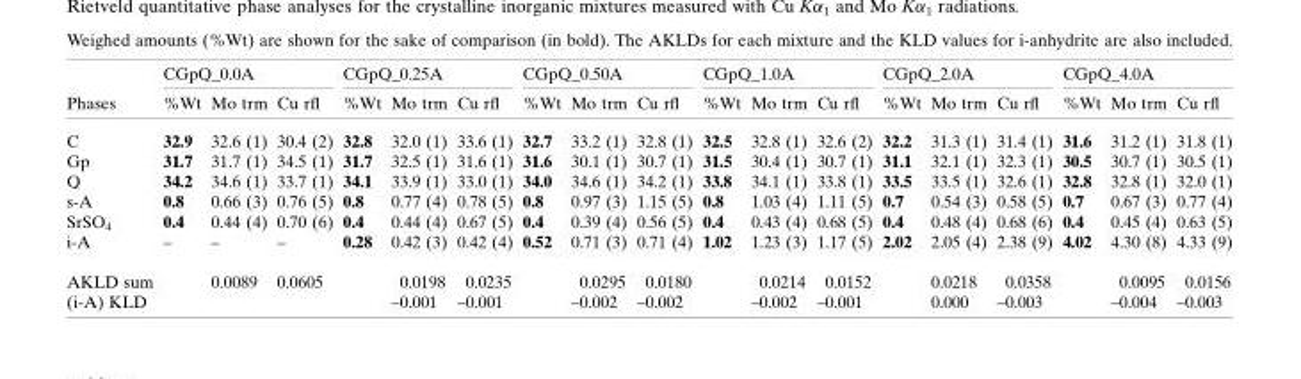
<table><thead><tr><td rowspan="2">Phases</td><td colspan="3">CGpQ_0.0A</td><td colspan="3">CGpQ_0.25A</td><td colspan="3">CGpQ_0.50A</td><td colspan="3">CGpQ_1.0A</td><td colspan="3">CGpQ_2.0A</td><td colspan="3">CGpQ_4.0A</td></tr><tr><td>%Wt</td><td>Mo trm</td><td>Cu rfl</td><td>%Wt</td><td>Mo trm</td><td>Cu rfl</td><td>%Wt</td><td>Mo trm</td><td>Cu rfl</td><td>%Wt</td><td>Mo trm</td><td>Cu rfl</td><td>%Wt</td><td>Mo trm</td><td>Cu rfl</td><td>%Wt</td><td>Mo trm</td><td>Cu rfl</td></tr></thead><tbody><tr><td>C</td><td>32.9</td><td>32.6 (1)</td><td>30.4 (2)</td><td>32.8</td><td>32.0 (1)</td><td>33.6 (1)</td><td>32.7</td><td>33.2 (1)</td><td>32.8 (1)</td><td>32.5</td><td>32.8 (1)</td><td>32.6 (2)</td><td>32.2</td><td>31.3 (1)</td><td>31.4 (1)</td><td>31.6</td><td>31.2 (1)</td><td>31.8 (1)</td></tr><tr><td>Gp</td><td>31.7</td><td>31.7 (1)</td><td>34.5 (1)</td><td>31.7</td><td>32.5 (1)</td><td>31.6 (1)</td><td>31.6</td><td>30.1 (1)</td><td>30.7 (1)</td><td>31.5</td><td>30.4 (1)</td><td>30.7 (1)</td><td>31.1</td><td>32.1 (1)</td><td>32.3 (1)</td><td>30.5</td><td>30.7 (1)</td><td>30.5 (1)</td></tr><tr><td>Q</td><td>34.2</td><td>34.6 (1)</td><td>33.7 (1)</td><td>34.1</td><td>33.9 (1)</td><td>33.0 (1)</td><td>34.0</td><td>34.6 (1)</td><td>34.2 (1)</td><td>33.8</td><td>34.1 (1)</td><td>33.8 (1)</td><td>33.5</td><td>33.5 (1)</td><td>32.6 (1)</td><td>32.8</td><td>32.8 (1)</td><td>32.0 (1)</td></tr><tr><td>s-A</td><td>0.8</td><td>0.66 (3)</td><td>0.76 (5)</td><td>0.8</td><td>0.77 (4)</td><td>0.78 (5)</td><td>0.8</td><td>0.97 (3)</td><td>1.15 (5)</td><td>0.8</td><td>1.03 (4)</td><td>1.11 (5)</td><td>0.7</td><td>0.54 (3)</td><td>0.58 (5)</td><td>0.7</td><td>0.67 (3)</td><td>0.77 (4)</td></tr><tr><td>SrSO<sub>4</sub></td><td>0.4</td><td>0.44 (4)</td><td>0.70 (6)</td><td>0.4</td><td>0.44 (4)</td><td>0.67 (5)</td><td>0.4</td><td>0.39 (4)</td><td>0.56 (5)</td><td>0.4</td><td>0.43 (4)</td><td>0.68 (5)</td><td>0.4</td><td>0.48 (4)</td><td>0.68 (6)</td><td>0.4</td><td>0.45 (4)</td><td>0.63 (5)</td></tr><tr><td>i-A</td><td>–</td><td>–</td><td>–</td><td>0.28</td><td>0.42 (3)</td><td>0.42 (4)</td><td>0.52</td><td>0.71 (3)</td><td>0.71 (4)</td><td>1.02</td><td>1.23 (3)</td><td>1.17 (5)</td><td>2.02</td><td>2.05 (4)</td><td>2.38 (9)</td><td>4.02</td><td>4.30 (8)</td><td>4.33 (9)</td></tr><tr><td>AKLD sum</td><td></td><td>0.0089</td><td>0.0605</td><td></td><td>0.0198</td><td>0.0235</td><td></td><td>0.0295</td><td>0.0180</td><td></td><td>0.0214</td><td>0.0152</td><td></td><td>0.0218</td><td>0.0358</td><td></td><td>0.0095</td><td>0.0156</td></tr><tr><td>(i-A) KLD</td><td></td><td></td><td></td><td></td><td>–0.001</td><td>–0.001</td><td></td><td>–0.002</td><td>–0.002</td><td></td><td>–0.002</td><td>–0.001</td><td></td><td>0.000</td><td>–0.003</td><td></td><td>–0.004</td><td>–0.003</td></tr></tbody></table>